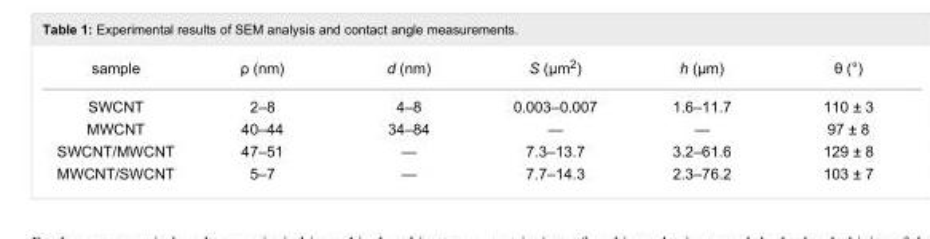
<table><tbody><tr><td>sample</td><td>ρ (nm)</td><td>d (nm)</td><td>S (μm<sup>2</sup>)</td><td>h (μm)</td><td>θ (°)</td></tr><tr><td>SWCNT</td><td>2–8</td><td>4–8</td><td>0.003–0.007</td><td>1.6–11.7</td><td>110 ± 3</td></tr><tr><td>MWCNT</td><td>40–44</td><td>34–84</td><td>—</td><td>—</td><td>97 ± 8</td></tr><tr><td>SWCNT/MWCNT</td><td>47–51</td><td>—</td><td>7.3–13.7</td><td>3.2–61.6</td><td>129 ± 8</td></tr><tr><td>MWCNT/SWCNT</td><td>5–7</td><td>—</td><td>7.7–14.3</td><td>2.3–76.2</td><td>103 ± 7</td></tr></tbody></table>